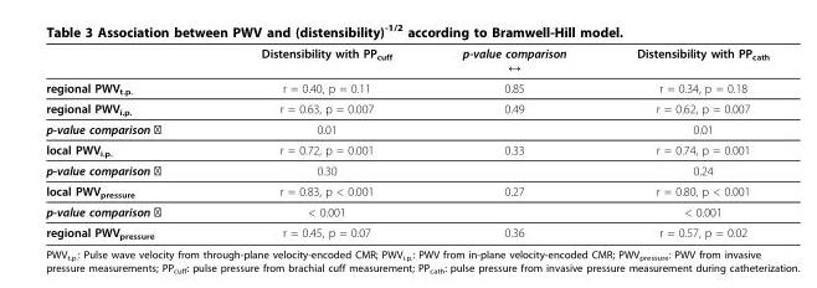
<table><thead><tr><td></td><td>Distensibility with PP<sub>cuff</sub></td><td>p-value comparison ↔</td><td>Distensibility with PP<sub>cath</sub></td></tr></thead><tbody><tr><td>regional PWV<sub>t.p.</sub></td><td>r = 0.40, p = 0.11</td><td>0.85</td><td>r = 0.34, p = 0.18</td></tr><tr><td>regional PWV<sub>i.p.</sub></td><td>r = 0.63, p = 0.007</td><td>0.49</td><td>r = 0.62, p = 0.007</td></tr><tr><td>p-value comparison ↨</td><td>0.01</td><td></td><td>0.01</td></tr><tr><td>local PWV<sub>i.p.</sub></td><td>r = 0.72, p = 0.001</td><td>0.33</td><td>r = 0.74, p = 0.001</td></tr><tr><td>p-value comparison ↨</td><td>0.30</td><td></td><td>0.24</td></tr><tr><td>local PWV<sub>pressure</sub></td><td>r = 0.83, p &lt; 0.001</td><td>0.27</td><td>r = 0.80, p &lt; 0.001</td></tr><tr><td>p-value comparison ↨</td><td>&lt; 0.001</td><td></td><td>&lt; 0.001</td></tr><tr><td>regional PWV<sub>pressure</sub></td><td>r = 0.45, p = 0.07</td><td>0.36</td><td>r = 0.57, p = 0.02</td></tr></tbody></table>